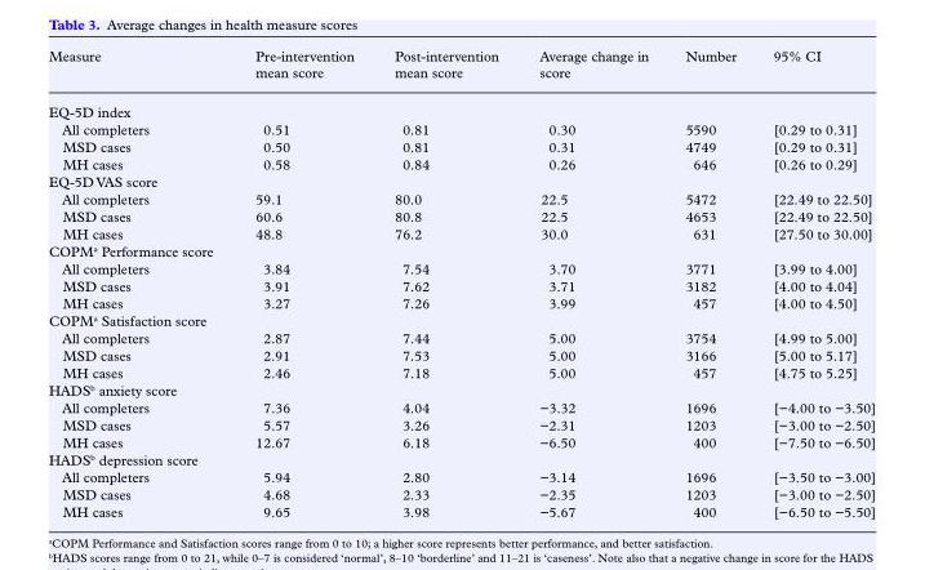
<table><thead><tr><td>Measure</td><td>Pre-intervention mean score</td><td>Post-intervention mean score</td><td>Average change in score</td><td>Number</td><td>95% CI</td></tr></thead><tbody><tr><td colspan="6">EQ-5D index</td></tr><tr><td>All completers</td><td>0.51</td><td>0.81</td><td>0.30</td><td>5590</td><td>[0.29 to 0.31]</td></tr><tr><td>MSD cases</td><td>0.50</td><td>0.81</td><td>0.31</td><td>4749</td><td>[0.29 to 0.31]</td></tr><tr><td>MH cases</td><td>0.58</td><td>0.84</td><td>0.26</td><td>646</td><td>[0.26 to 0.29]</td></tr><tr><td colspan="6">EQ-5D VAS score</td></tr><tr><td>All completers</td><td>59.1</td><td>80.0</td><td>22.5</td><td>5472</td><td>[22.49 to 22.50]</td></tr><tr><td>MSD cases</td><td>60.6</td><td>80.8</td><td>22.5</td><td>4653</td><td>[22.49 to 22.50]</td></tr><tr><td>MH cases</td><td>48.8</td><td>76.2</td><td>30.0</td><td>631</td><td>[27.50 to 30.00]</td></tr><tr><td colspan="6">COPM<sup>a</sup> Performance score</td></tr><tr><td>All completers</td><td>3.84</td><td>7.54</td><td>3.70</td><td>3771</td><td>[3.99 to 4.00]</td></tr><tr><td>MSD cases</td><td>3.91</td><td>7.62</td><td>3.71</td><td>3182</td><td>[4.00 to 4.04]</td></tr><tr><td>MH cases</td><td>3.27</td><td>7.26</td><td>3.99</td><td>457</td><td>[4.00 to 4.50]</td></tr><tr><td colspan="6">COPM<sup>a</sup> Satisfaction score</td></tr><tr><td>All completers</td><td>2.87</td><td>7.44</td><td>5.00</td><td>3754</td><td>[4.99 to 5.00]</td></tr><tr><td>MSD cases</td><td>2.91</td><td>7.53</td><td>5.00</td><td>3166</td><td>[5.00 to 5.17]</td></tr><tr><td>MH cases</td><td>2.46</td><td>7.18</td><td>5.00</td><td>457</td><td>[4.75 to 5.25]</td></tr><tr><td colspan="6">HADS<sup>b</sup> anxiety score</td></tr><tr><td>All completers</td><td>7.36</td><td>4.04</td><td>−3.32</td><td>1696</td><td>[−4.00 to −3.50]</td></tr><tr><td>MSD cases</td><td>5.57</td><td>3.26</td><td>−2.31</td><td>1203</td><td>[−3.00 to −2.50]</td></tr><tr><td>MH cases</td><td>12.67</td><td>6.18</td><td>−6.50</td><td>400</td><td>[−7.50 to −6.50]</td></tr><tr><td colspan="6">HADS<sup>b</sup> depression score</td></tr><tr><td>All completers</td><td>5.94</td><td>2.80</td><td>−3.14</td><td>1696</td><td>[−3.50 to −3.00]</td></tr><tr><td>MSD cases</td><td>4.68</td><td>2.33</td><td>−2.35</td><td>1203</td><td>[−3.00 to −2.50]</td></tr><tr><td>MH cases</td><td>9.65</td><td>3.98</td><td>−5.67</td><td>400</td><td>[−6.50 to −5.50]</td></tr></tbody></table>